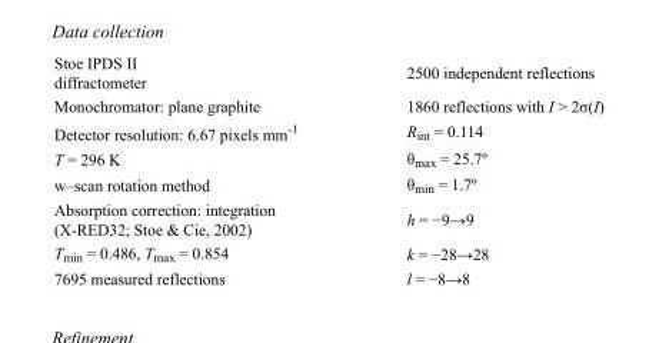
<table><tbody><tr><td>Stoe IPDS II diffractometer</td><td>2500 independent reflections</td></tr><tr><td>Monochromator: plane graphite</td><td>1860 reflections with I &gt; 2σ(I)</td></tr><tr><td>Detector resolution: 6.67 pixels mm<sup>-1</sup></td><td>R<sub>int</sub> = 0.114</td></tr><tr><td>T = 296 K</td><td>θ<sub>max</sub> = 25.7º</td></tr><tr><td>w–scan rotation method</td><td>θ<sub>min</sub> = 1.7º</td></tr><tr><td>Absorption correction: integration (X-RED32; Stoe &amp; Cie, 2002)</td><td>h = −9→9</td></tr><tr><td>T<sub>min</sub> = 0.486, T<sub>max</sub> = 0.854</td><td>k = −28→28</td></tr><tr><td>7695 measured reflections</td><td>l = −8→8</td></tr></tbody></table>